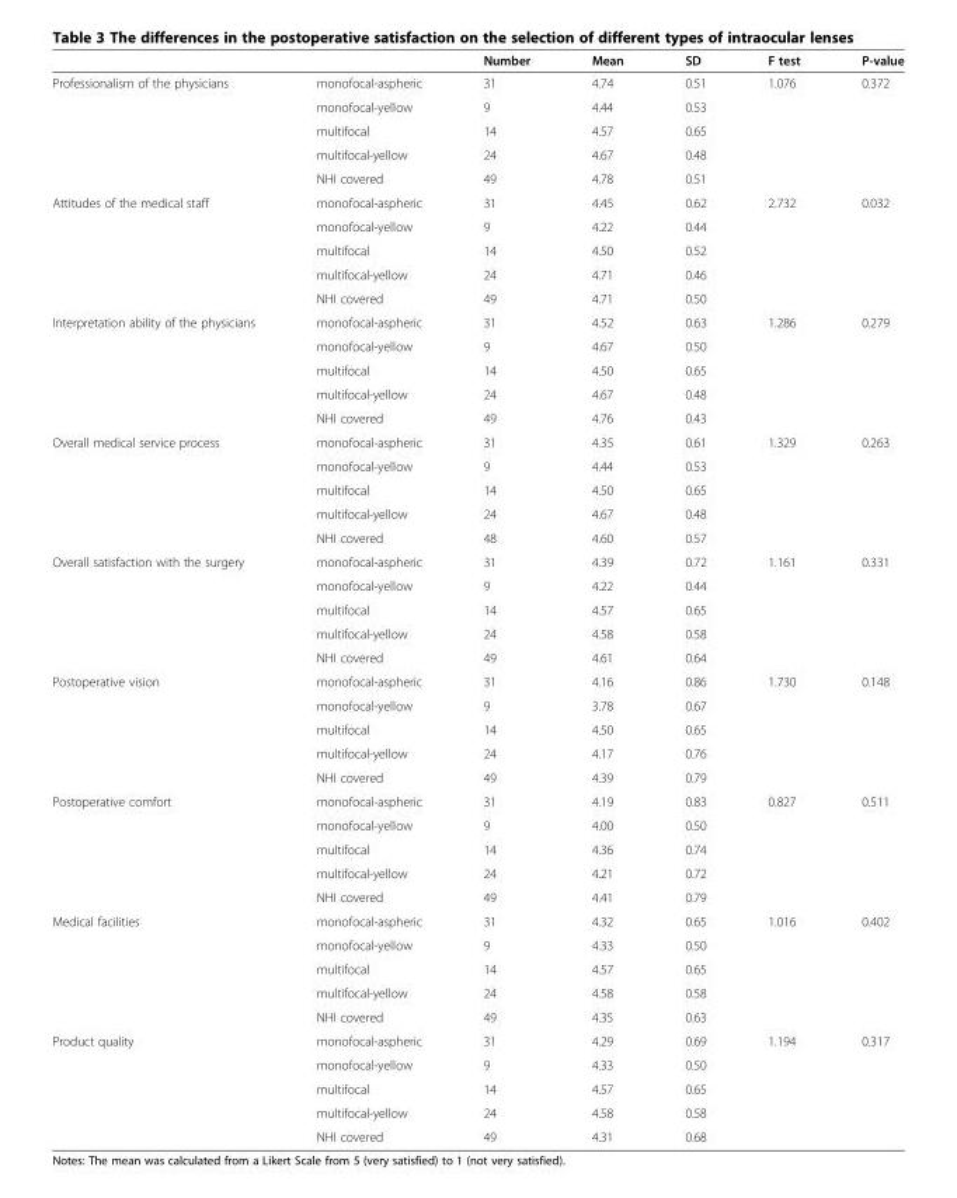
<table><thead><tr><td></td><td></td><td>Number</td><td>Mean</td><td>SD</td><td>F test</td><td>P-value</td></tr></thead><tbody><tr><td rowspan="5">Professionalism of the physicians</td><td>monofocal-aspheric</td><td>31</td><td>4.74</td><td>0.51</td><td rowspan="5">1.076</td><td rowspan="5">0.372</td></tr><tr><td>monofocal-yellow</td><td>9</td><td>4.44</td><td>0.53</td></tr><tr><td>multifocal</td><td>14</td><td>4.57</td><td>0.65</td></tr><tr><td>multifocal-yellow</td><td>24</td><td>4.67</td><td>0.48</td></tr><tr><td>NHI covered</td><td>49</td><td>4.78</td><td>0.51</td></tr><tr><td rowspan="5">Attitudes of the medical staff</td><td>monofocal-aspheric</td><td>31</td><td>4.45</td><td>0.62</td><td rowspan="5">2.732</td><td rowspan="5">0.032</td></tr><tr><td>monofocal-yellow</td><td>9</td><td>4.22</td><td>0.44</td></tr><tr><td>multifocal</td><td>14</td><td>4.50</td><td>0.52</td></tr><tr><td>multifocal-yellow</td><td>24</td><td>4.71</td><td>0.46</td></tr><tr><td>NHI covered</td><td>49</td><td>4.71</td><td>0.50</td></tr><tr><td rowspan="5">Interpretation ability of the physicians</td><td>monofocal-aspheric</td><td>31</td><td>4.52</td><td>0.63</td><td rowspan="5">1.286</td><td rowspan="5">0.279</td></tr><tr><td>monofocal-yellow</td><td>9</td><td>4.67</td><td>0.50</td></tr><tr><td>multifocal</td><td>14</td><td>4.50</td><td>0.65</td></tr><tr><td>multifocal-yellow</td><td>24</td><td>4.67</td><td>0.48</td></tr><tr><td>NHI covered</td><td>49</td><td>4.76</td><td>0.43</td></tr><tr><td rowspan="5">Overall medical service process</td><td>monofocal-aspheric</td><td>31</td><td>4.35</td><td>0.61</td><td rowspan="5">1.329</td><td rowspan="5">0.263</td></tr><tr><td>monofocal-yellow</td><td>9</td><td>4.44</td><td>0.53</td></tr><tr><td>multifocal</td><td>14</td><td>4.50</td><td>0.65</td></tr><tr><td>multifocal-yellow</td><td>24</td><td>4.67</td><td>0.48</td></tr><tr><td>NHI covered</td><td>48</td><td>4.60</td><td>0.57</td></tr><tr><td rowspan="5">Overall satisfaction with the surgery</td><td>monofocal-aspheric</td><td>31</td><td>4.39</td><td>0.72</td><td rowspan="5">1.161</td><td rowspan="5">0.331</td></tr><tr><td>monofocal-yellow</td><td>9</td><td>4.22</td><td>0.44</td></tr><tr><td>multifocal</td><td>14</td><td>4.57</td><td>0.65</td></tr><tr><td>multifocal-yellow</td><td>24</td><td>4.58</td><td>0.58</td></tr><tr><td>NHI covered</td><td>49</td><td>4.61</td><td>0.64</td></tr><tr><td rowspan="5">Postoperative vision</td><td>monofocal-aspheric</td><td>31</td><td>4.16</td><td>0.86</td><td rowspan="5">1.730</td><td rowspan="5">0.148</td></tr><tr><td>monofocal-yellow</td><td>9</td><td>3.78</td><td>0.67</td></tr><tr><td>multifocal</td><td>14</td><td>4.50</td><td>0.65</td></tr><tr><td>multifocal-yellow</td><td>24</td><td>4.17</td><td>0.76</td></tr><tr><td>NHI covered</td><td>49</td><td>4.39</td><td>0.79</td></tr><tr><td rowspan="5">Postoperative comfort</td><td>monofocal-aspheric</td><td>31</td><td>4.19</td><td>0.83</td><td rowspan="5">0.827</td><td rowspan="5">0.511</td></tr><tr><td>monofocal-yellow</td><td>9</td><td>4.00</td><td>0.50</td></tr><tr><td>multifocal</td><td>14</td><td>4.36</td><td>0.74</td></tr><tr><td>multifocal-yellow</td><td>24</td><td>4.21</td><td>0.72</td></tr><tr><td>NHI covered</td><td>49</td><td>4.41</td><td>0.79</td></tr><tr><td rowspan="5">Medical facilities</td><td>monofocal-aspheric</td><td>31</td><td>4.32</td><td>0.65</td><td rowspan="5">1.016</td><td rowspan="5">0.402</td></tr><tr><td>monofocal-yellow</td><td>9</td><td>4.33</td><td>0.50</td></tr><tr><td>multifocal</td><td>14</td><td>4.57</td><td>0.65</td></tr><tr><td>multifocal-yellow</td><td>24</td><td>4.58</td><td>0.58</td></tr><tr><td>NHI covered</td><td>49</td><td>4.35</td><td>0.63</td></tr><tr><td rowspan="5">Product quality</td><td>monofocal-aspheric</td><td>31</td><td>4.29</td><td>0.69</td><td rowspan="5">1.194</td><td rowspan="5">0.317</td></tr><tr><td>monofocal-yellow</td><td>9</td><td>4.33</td><td>0.50</td></tr><tr><td>multifocal</td><td>14</td><td>4.57</td><td>0.65</td></tr><tr><td>multifocal-yellow</td><td>24</td><td>4.58</td><td>0.58</td></tr><tr><td>NHI covered</td><td>49</td><td>4.31</td><td>0.68</td></tr></tbody></table>